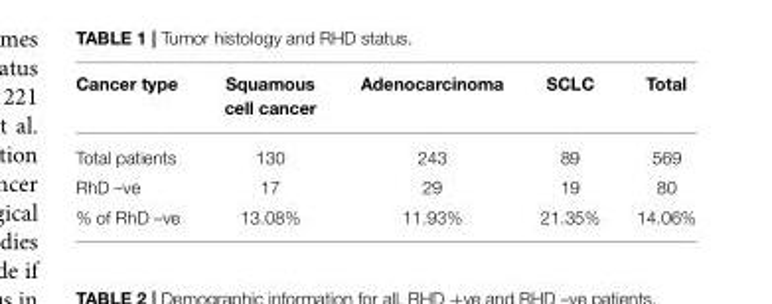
<table><thead><tr><td>Cancer type</td><td>Squamous cell cancer</td><td>Adenocarcinoma</td><td>SCLC</td><td>Total</td></tr></thead><tbody><tr><td>Total patients</td><td>130</td><td>243</td><td>89</td><td>569</td></tr><tr><td>RhD –ve</td><td>17</td><td>29</td><td>19</td><td>80</td></tr><tr><td>% of RhD –ve</td><td>13.08%</td><td>11.93%</td><td>21.35%</td><td>14.06%</td></tr></tbody></table>